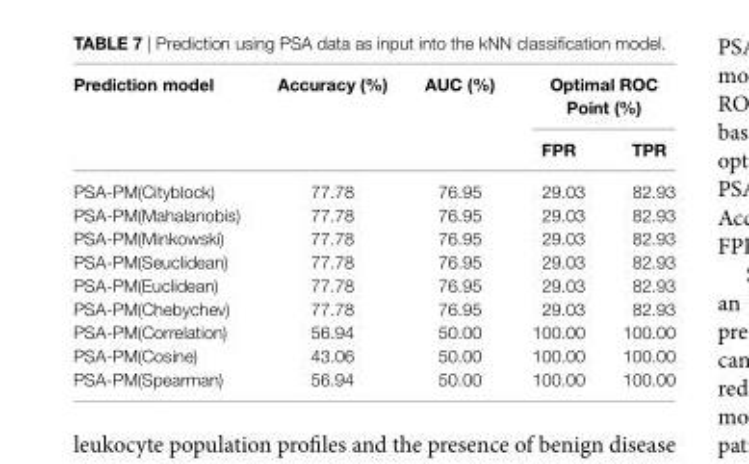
<table><thead><tr><td rowspan="2">Prediction model</td><td rowspan="2">accuracy (%)</td><td rowspan="2">aUc (%)</td><td colspan="2">Optimal rOc Point (%)</td></tr><tr><td>FPr</td><td>TPr</td></tr></thead><tbody><tr><td>PSA-PM(Cityblock)</td><td>77.78</td><td>76.95</td><td>29.03</td><td>82.93</td></tr><tr><td>PSA-PM(Mahalanobis)</td><td>77.78</td><td>76.95</td><td>29.03</td><td>82.93</td></tr><tr><td>PSA-PM(Minkowski)</td><td>77.78</td><td>76.95</td><td>29.03</td><td>82.93</td></tr><tr><td>PSA-PM(Seuclidean)</td><td>77.78</td><td>76.95</td><td>29.03</td><td>82.93</td></tr><tr><td>PSA-PM(Euclidean)</td><td>77.78</td><td>76.95</td><td>29.03</td><td>82.93</td></tr><tr><td>PSA-PM(Chebychev)</td><td>77.78</td><td>76.95</td><td>29.03</td><td>82.93</td></tr><tr><td>PSA-PM(Correlation)</td><td>56.94</td><td>50.00</td><td>100.00</td><td>100.00</td></tr><tr><td>PSA-PM(Cosine)</td><td>43.06</td><td>50.00</td><td>100.00</td><td>100.00</td></tr><tr><td>PSA-PM(Spearman)</td><td>56.94</td><td>50.00</td><td>100.00</td><td>100.00</td></tr></tbody></table>